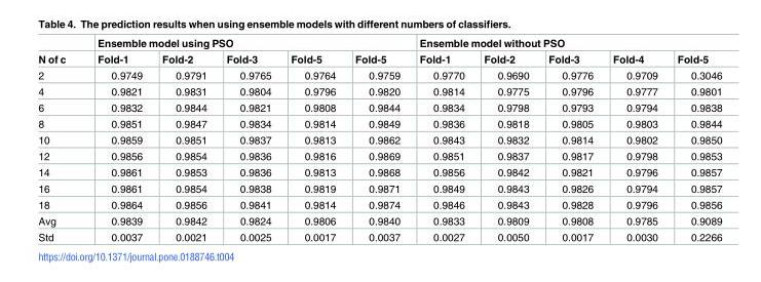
<table><thead><tr><td rowspan="2">N of c</td><td colspan="5">Ensemble model using PSO</td><td colspan="5">Ensemble model without PSO</td></tr><tr><td>Fold-1</td><td>Fold-2</td><td>Fold-3</td><td>Fold-5</td><td>Fold-5</td><td>Fold-1</td><td>Fold-2</td><td>Fold-3</td><td>Fold-4</td><td>Fold-5</td></tr></thead><tbody><tr><td>2</td><td>0.9749</td><td>0.9791</td><td>0.9765</td><td>0.9764</td><td>0.9759</td><td>0.9770</td><td>0.9690</td><td>0.9776</td><td>0.9709</td><td>0.3046</td></tr><tr><td>4</td><td>0.9821</td><td>0.9831</td><td>0.9804</td><td>0.9796</td><td>0.9820</td><td>0.9814</td><td>0.9775</td><td>0.9796</td><td>0.9777</td><td>0.9801</td></tr><tr><td>6</td><td>0.9832</td><td>0.9844</td><td>0.9821</td><td>0.9808</td><td>0.9844</td><td>0.9834</td><td>0.9798</td><td>0.9793</td><td>0.9794</td><td>0.9838</td></tr><tr><td>8</td><td>0.9851</td><td>0.9847</td><td>0.9834</td><td>0.9814</td><td>0.9849</td><td>0.9836</td><td>0.9818</td><td>0.9805</td><td>0.9803</td><td>0.9844</td></tr><tr><td>10</td><td>0.9859</td><td>0.9851</td><td>0.9837</td><td>0.9813</td><td>0.9862</td><td>0.9843</td><td>0.9832</td><td>0.9814</td><td>0.9802</td><td>0.9850</td></tr><tr><td>12</td><td>0.9856</td><td>0.9854</td><td>0.9836</td><td>0.9816</td><td>0.9869</td><td>0.9851</td><td>0.9837</td><td>0.9817</td><td>0.9798</td><td>0.9853</td></tr><tr><td>14</td><td>0.9861</td><td>0.9853</td><td>0.9836</td><td>0.9813</td><td>0.9868</td><td>0.9856</td><td>0.9842</td><td>0.9821</td><td>0.9796</td><td>0.9857</td></tr><tr><td>16</td><td>0.9861</td><td>0.9854</td><td>0.9838</td><td>0.9819</td><td>0.9871</td><td>0.9849</td><td>0.9843</td><td>0.9826</td><td>0.9794</td><td>0.9857</td></tr><tr><td>18</td><td>0.9864</td><td>0.9856</td><td>0.9841</td><td>0.9814</td><td>0.9874</td><td>0.9846</td><td>0.9843</td><td>0.9828</td><td>0.9796</td><td>0.9856</td></tr><tr><td>Avg</td><td>0.9839</td><td>0.9842</td><td>0.9824</td><td>0.9806</td><td>0.9840</td><td>0.9833</td><td>0.9809</td><td>0.9808</td><td>0.9785</td><td>0.9089</td></tr><tr><td>Std</td><td>0.0037</td><td>0.0021</td><td>0.0025</td><td>0.0017</td><td>0.0037</td><td>0.0027</td><td>0.0050</td><td>0.0017</td><td>0.0030</td><td>0.2266</td></tr></tbody></table>